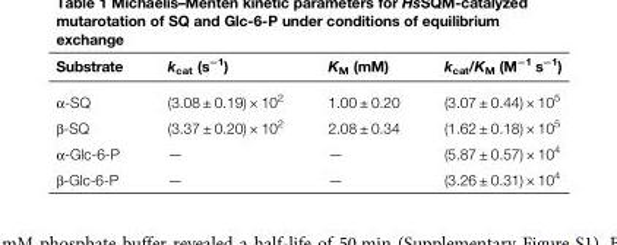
<table><thead><tr><td>Substrate</td><td>k<sub>cat</sub> (s<sup>−1</sup>)</td><td>K<sub>M</sub> (mM)</td><td>k<sub>cat</sub>/K<sub>M</sub> (M<sup>−1</sup> s<sup>−1</sup>)</td></tr></thead><tbody><tr><td>α-SQ</td><td>(3.08 ± 0.19) × 10<sup>2</sup></td><td>1.00 ± 0.20</td><td>(3.07 ± 0.44) × 10<sup>5</sup></td></tr><tr><td>β-SQ</td><td>(3.37 ± 0.20) × 10<sup>2</sup></td><td>2.08 ± 0.34</td><td>(1.62 ± 0.18) × 10<sup>5</sup></td></tr><tr><td>α-Glc-6-P</td><td>—</td><td>—</td><td>(5.87 ± 0.57) × 10<sup>4</sup></td></tr><tr><td>β-Glc-6-P</td><td>—</td><td>—</td><td>(3.26 ± 0.31) × 10<sup>4</sup></td></tr></tbody></table>